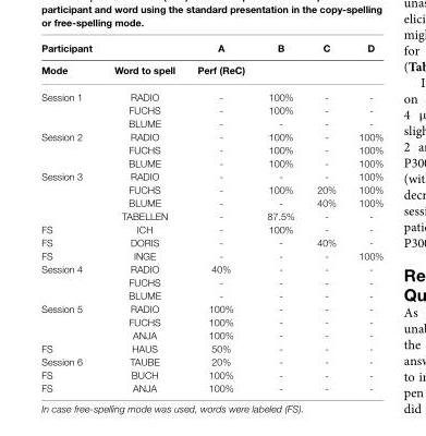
<table><thead><tr><td rowspan="2">Participant Mode</td><td rowspan="2">Word to spell</td><td rowspan="2">A Perf (ReC)</td><td rowspan="2">B</td><td rowspan="2">C</td><td rowspan="2">D</td></tr><tr></tr></thead><tbody><tr><td rowspan="3">Session 1</td><td>RADIO</td><td>-</td><td>100%</td><td>-</td><td>-</td></tr><tr><td>FUCHS</td><td>-</td><td>100%</td><td>-</td><td>-</td></tr><tr><td>BLUME</td><td>-</td><td>-</td><td>-</td><td>-</td></tr><tr><td rowspan="3">Session 2</td><td>RADIO</td><td>-</td><td>100%</td><td>-</td><td>100%</td></tr><tr><td>FUCHS</td><td>-</td><td>100%</td><td>-</td><td>100%</td></tr><tr><td>BLUME</td><td>-</td><td>100%</td><td>-</td><td>100%</td></tr><tr><td rowspan="4">Session 3</td><td>RADIO</td><td>-</td><td>-</td><td>-</td><td>100%</td></tr><tr><td>FUCHS</td><td>-</td><td>100%</td><td>20%</td><td>100%</td></tr><tr><td>BLUME</td><td>-</td><td>-</td><td>40%</td><td>100%</td></tr><tr><td>TABELLEN</td><td>-</td><td>87.5%</td><td>-</td><td>-</td></tr><tr><td>FS</td><td>ICH</td><td>-</td><td>100%</td><td>-</td><td>-</td></tr><tr><td>FS</td><td>DORIS</td><td>-</td><td>-</td><td>40%</td><td>-</td></tr><tr><td>FS</td><td>INGE</td><td>-</td><td>-</td><td>-</td><td>100%</td></tr><tr><td rowspan="3">Session 4</td><td>RADIO</td><td>40%</td><td>-</td><td>-</td><td>-</td></tr><tr><td>FUCHS</td><td>-</td><td>-</td><td>-</td><td>-</td></tr><tr><td>BLUME</td><td>-</td><td>-</td><td>-</td><td>-</td></tr><tr><td rowspan="3">Session 5</td><td>RADIO</td><td>100%</td><td>-</td><td>-</td><td>-</td></tr><tr><td>FUCHS</td><td>100%</td><td>-</td><td>-</td><td>-</td></tr><tr><td>ANJA</td><td>100%</td><td>-</td><td>-</td><td>-</td></tr><tr><td>FS</td><td>HAUS</td><td>50%</td><td>-</td><td>-</td><td>-</td></tr><tr><td>Session 6</td><td>TAUBE</td><td>20%</td><td>-</td><td>-</td><td>-</td></tr><tr><td>FS</td><td>BUCH</td><td>100%</td><td>-</td><td>-</td><td>-</td></tr><tr><td>FS</td><td>ANJA</td><td>100%</td><td>-</td><td>-</td><td>-</td></tr></tbody></table>